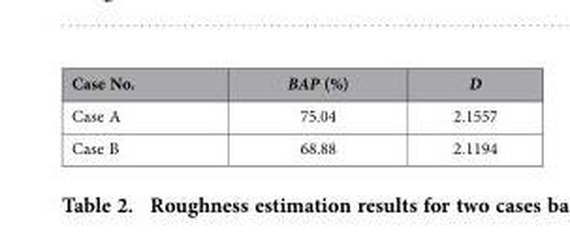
<table><thead><tr><td>Case No.</td><td>BAP (%)</td><td>D</td></tr></thead><tbody><tr><td>Case A</td><td>75.04</td><td>2.1557</td></tr><tr><td>Case B</td><td>68.88</td><td>2.1194</td></tr></tbody></table>